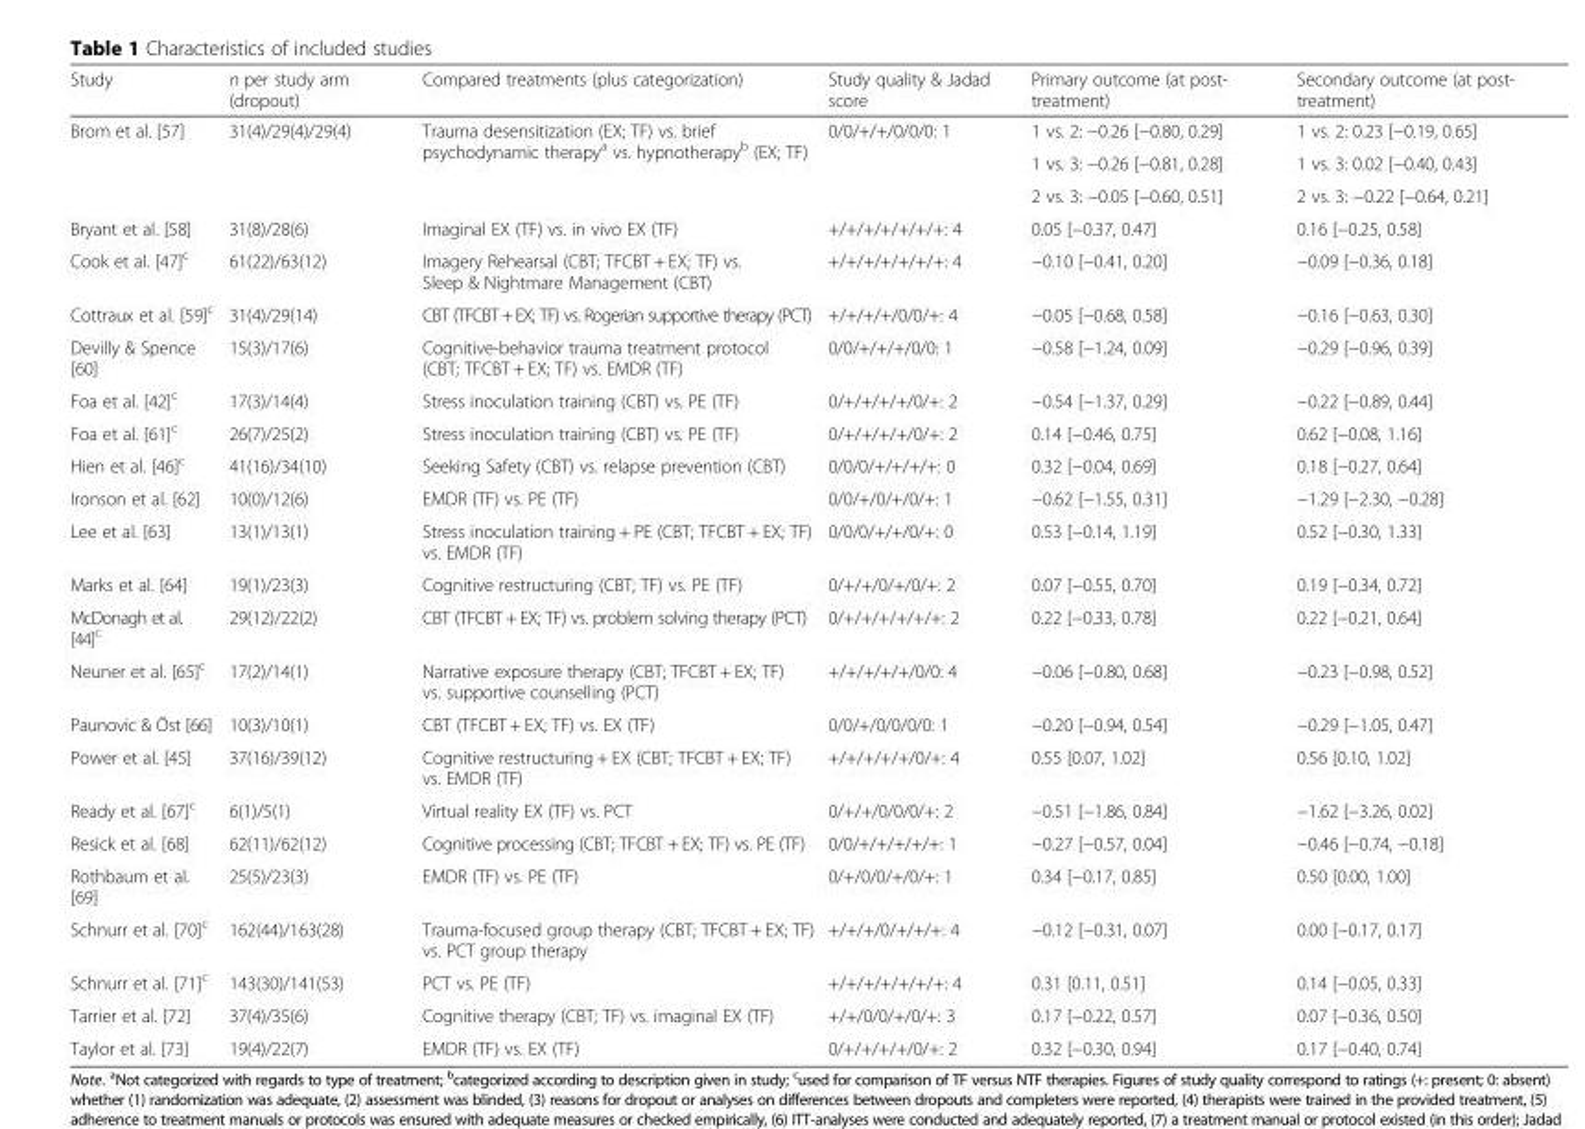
<table><thead><tr><td>Study</td><td>n per study arm (dropout)</td><td>Compared treatments (plus categorization)</td><td>Study quality &amp; Jadad score</td><td>Primary outcome (at post- treatment)</td><td>Secondary outcome (at post- treatment)</td></tr></thead><tbody><tr><td rowspan="3">Brom et al. [57]</td><td rowspan="3">31(4)/29(4)/29(4)</td><td rowspan="3">Trauma desensitization (EX; TF) vs. brief psychodynamic therapy<sup>a</sup> vs. hypnotherapy<sup>b</sup> (EX; TF)</td><td rowspan="3">0/0/+/+/0/0/0: 1</td><td>1 vs. 2: −0.26 [−0.80, 0.29]</td><td>1 vs. 2: 0.23 [−0.19, 0.65]</td></tr><tr><td>1 vs. 3: −0.26 [−0.81, 0.28]</td><td>1 vs. 3: 0.02 [−0.40, 0.43]</td></tr><tr><td>2 vs. 3: −0.05 [−0.60, 0.51]</td><td>2 vs. 3: −0.22 [−0.64, 0.21]</td></tr><tr><td>Bryant et al. [58]</td><td>31(8)/28(6)</td><td>Imaginal EX (TF) vs. in vivo EX (TF)</td><td>+/+/+/+/+/+/+: 4</td><td>0.05 [−0.37, 0.47]</td><td>0.16 [−0.25, 0.58]</td></tr><tr><td>Cook et al. [47]<sup>c</sup></td><td>61(22)/63(12)</td><td>Imagery Rehearsal (CBT; TFCBT + EX; TF) vs. Sleep &amp; Nightmare Management (CBT)</td><td>+/+/+/+/+/+/+: 4</td><td>−0.10 [−0.41, 0.20]</td><td>−0.09 [−0.36, 0.18]</td></tr><tr><td>Cottraux et al. [59]<sup>c</sup></td><td>31(4)/29(14)</td><td>CBT (TFCBT +EX; TF) vs. Rogerian supportive therapy (PCT)</td><td>+/+/+/+/0/0/+: 4</td><td>−0.05 [−0.68, 0.58]</td><td>−0.16 [−0.63, 0.30]</td></tr><tr><td>Devilly &amp; Spence [60]</td><td>15(3)/17(6)</td><td>Cognitive-behavior trauma treatment protocol (CBT; TFCBT + EX; TF) vs. EMDR (TF)</td><td>0/0/+/+/+/0/0: 1</td><td>−0.58 [−1.24, 0.09]</td><td>−0.29 [−0.96, 0.39]</td></tr><tr><td>Foa et al. [42]<sup>c</sup></td><td>17(3)/14(4)</td><td>Stress inoculation training (CBT) vs. PE (TF)</td><td>0/+/+/+/+/0/+: 2</td><td>−0.54 [−1.37, 0.29]</td><td>−0.22 [−0.89, 0.44]</td></tr><tr><td>Foa et al. [61]<sup>c</sup></td><td>26(7)/25(2)</td><td>Stress inoculation training (CBT) vs. PE (TF)</td><td>0/+/+/+/+/0/+: 2</td><td>0.14 [−0.46, 0.75]</td><td>0.62 [−0.08, 1.16]</td></tr><tr><td>Hien et al. [46]<sup>c</sup></td><td>41(16)/34(10)</td><td>Seeking Safety (CBT) vs. relapse prevention (CBT)</td><td>0/0/0/+/+/+/+: 0</td><td>0.32 [−0.04, 0.69]</td><td>0.18 [−0.27, 0.64]</td></tr><tr><td>Ironson et al. [62]</td><td>10(0)/12(6)</td><td>EMDR (TF) vs. PE (TF)</td><td>0/0/+/0/+/0/+: 1</td><td>−0.62 [−1.55, 0.31]</td><td>−1.29 [−2.30, −0.28]</td></tr><tr><td>Lee et al. [63]</td><td>13(1)/13(1)</td><td>Stress inoculation training + PE (CBT; TFCBT + EX; TF) vs. EMDR (TF)</td><td>0/0/0/+/+/0/+: 0</td><td>0.53 [−0.14, 1.19]</td><td>0.52 [−0.30, 1.33]</td></tr><tr><td>Marks et al. [64]</td><td>19(1)/23(3)</td><td>Cognitive restructuring (CBT; TF) vs. PE (TF)</td><td>0/+/+/0/+/0/+: 2</td><td>0.07 [−0.55, 0.70]</td><td>0.19 [−0.34, 0.72]</td></tr><tr><td>McDonagh et al. [44]<sup>c</sup></td><td>29(12)/22(2)</td><td>CBT (TFCBT + EX; TF) vs. problem solving therapy (PCT)</td><td>0/+/+/+/+/+/+: 2</td><td>0.22 [−0.33, 0.78]</td><td>0.22 [−0.21, 0.64]</td></tr><tr><td>Neuner et al. [65]<sup>c</sup></td><td>17(2)/14(1)</td><td>Narrative exposure therapy (CBT; TFCBT + EX; TF) vs. supportive counselling (PCT)</td><td>+/+/+/+/+/0/0: 4</td><td>−0.06 [−0.80, 0.68]</td><td>−0.23 [−0.98, 0.52]</td></tr><tr><td>Paunovic &amp; Öst [66]</td><td>10(3)/10(1)</td><td>CBT (TFCBT + EX; TF) vs. EX (TF)</td><td>0/0/+/0/0/0/0: 1</td><td>−0.20 [−0.94, 0.54]</td><td>−0.29 [−1.05, 0.47]</td></tr><tr><td>Power et al. [45]</td><td>37(16)/39(12)</td><td>Cognitive restructuring + EX (CBT; TFCBT + EX; TF) vs. EMDR (TF)</td><td>+/+/+/+/+/0/+: 4</td><td>0.55 [0.07, 1.02]</td><td>0.56 [0.10, 1.02]</td></tr><tr><td>Ready et al. [67]<sup>c</sup></td><td>6(1)/5(1)</td><td>Virtual reality EX (TF) vs. PCT</td><td>0/+/+/0/0/0/+: 2</td><td>−0.51 [−1.86, 0.84]</td><td>−1.62 [−3.26, 0.02]</td></tr><tr><td>Resick et al. [68]</td><td>62(11)/62(12)</td><td>Cognitive processing (CBT; TFCBT + EX; TF) vs. PE (TF)</td><td>0/0/+/+/+/+/+: 1</td><td>−0.27 [−0.57, 0.04]</td><td>−0.46 [−0.74, −0.18]</td></tr><tr><td>Rothbaum et al. [69]</td><td>25(5)/23(3)</td><td>EMDR (TF) vs. PE (TF)</td><td>0/+/0/0/+/0/+: 1</td><td>0.34 [−0.17, 0.85]</td><td>0.50 [0.00, 1.00]</td></tr><tr><td>Schnurr et al. [70]<sup>c</sup></td><td>162(44)/163(28)</td><td>Trauma-focused group therapy (CBT; TFCBT + EX; TF) vs. PCT group therapy</td><td>+/+/+/0/+/+/+: 4</td><td>−0.12 [−0.31, 0.07]</td><td>0.00 [−0.17, 0.17]</td></tr><tr><td>Schnurr et al. [71]<sup>c</sup></td><td>143(30)/141(53)</td><td>PCT vs. PE (TF)</td><td>+/+/+/+/+/+/+: 4</td><td>0.31 [0.11, 0.51]</td><td>0.14 [−0.05, 0.33]</td></tr><tr><td>Tarrier et al. [72]</td><td>37(4)/35(6)</td><td>Cognitive therapy (CBT; TF) vs. imaginal EX (TF)</td><td>+/+/0/0/+/0/+: 3</td><td>0.17 [−0.22, 0.57]</td><td>0.07 [−0.36, 0.50]</td></tr><tr><td>Taylor et al. [73]</td><td>19(4)/22(7)</td><td>EMDR (TF) vs. EX (TF)</td><td>0/+/+/+/+/0/+: 2</td><td>0.32 [−0.30, 0.94]</td><td>0.17 [−0.40, 0.74]</td></tr></tbody></table>